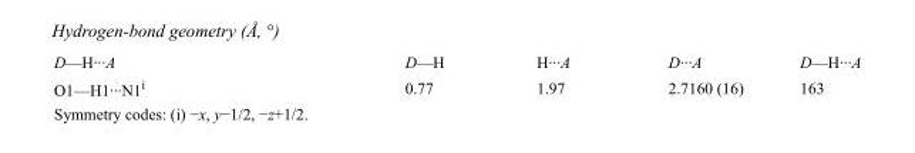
<table><tbody><tr><td>D—H···A</td><td>D—H</td><td>H···A</td><td>D···A</td><td>D—H···A</td></tr><tr><td>O1—H1···N1<sup>i</sup></td><td>0.77</td><td>1.97</td><td>2.7160 (16)</td><td>163</td></tr></tbody></table>